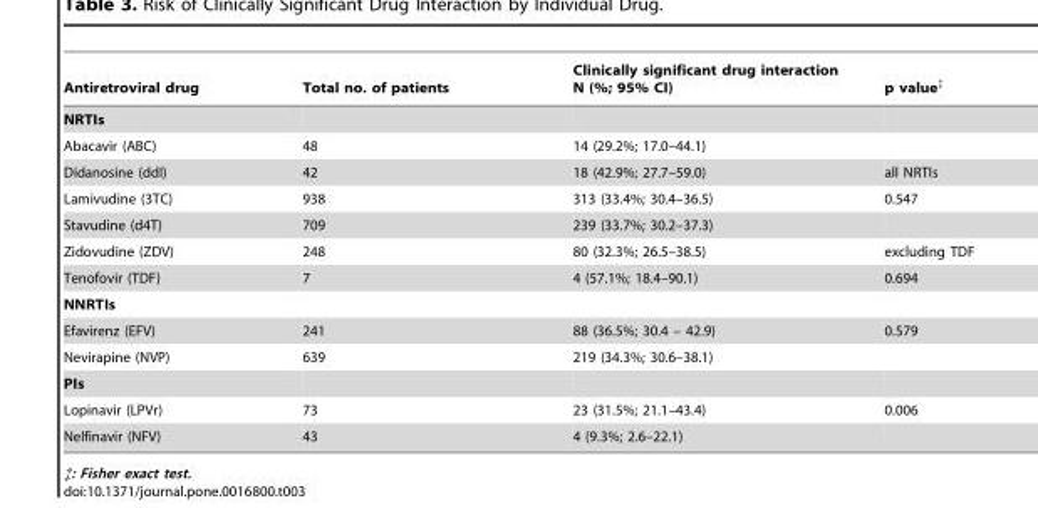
<table><thead><tr><td>Antiretroviral drug</td><td>Total no. of patients</td><td>Clinically significant drug interaction N (%; 95% CI)</td><td>p value‡</td></tr></thead><tbody><tr><td colspan="4">NRTIs</td></tr><tr><td>Abacavir (ABC)</td><td>48</td><td>14 (29.2%; 17.0–44.1)</td><td></td></tr><tr><td>Didanosine (ddI)</td><td>42</td><td>18 (42.9%; 27.7–59.0)</td><td>all NRTIs</td></tr><tr><td>Lamivudine (3TC)</td><td>938</td><td>313 (33.4%; 30.4–36.5)</td><td>0.547</td></tr><tr><td>Stavudine (d4T)</td><td>709</td><td>239 (33.7%; 30.2–37.3)</td><td></td></tr><tr><td>Zidovudine (ZDV)</td><td>248</td><td>80 (32.3%; 26.5–38.5)</td><td>excluding TDF</td></tr><tr><td>Tenofovir (TDF)</td><td>7</td><td>4 (57.1%; 18.4–90.1)</td><td>0.694</td></tr><tr><td colspan="4">NNRTIs</td></tr><tr><td>Efavirenz (EFV)</td><td>241</td><td>88 (36.5%; 30.4 – 42.9)</td><td>0.579</td></tr><tr><td>Nevirapine (NVP)</td><td>639</td><td>219 (34.3%; 30.6–38.1)</td><td></td></tr><tr><td colspan="4">PIs</td></tr><tr><td>Lopinavir (LPVr)</td><td>73</td><td>23 (31.5%; 21.1–43.4)</td><td>0.006</td></tr><tr><td>Nelfinavir (NFV)</td><td>43</td><td>4 (9.3%; 2.6–22.1)</td><td></td></tr></tbody></table>